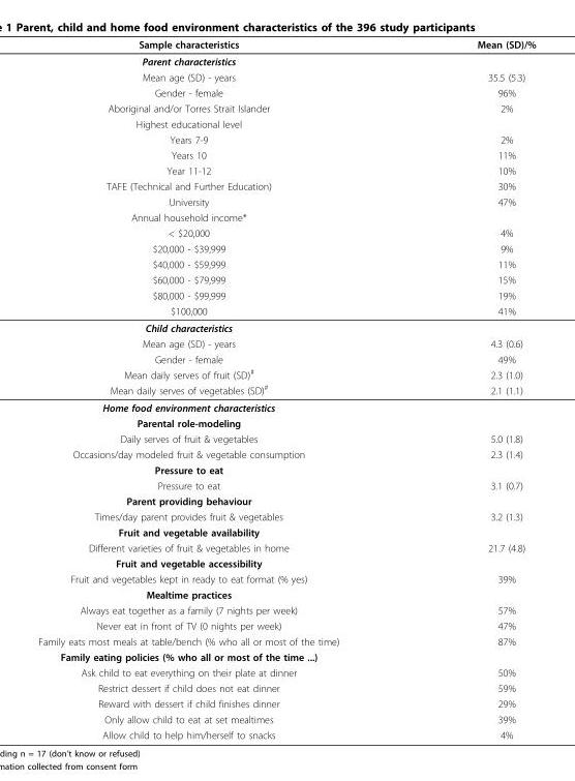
<table><thead><tr><td>Sample characteristics</td><td>Mean (SD)/%</td></tr></thead><tbody><tr><td colspan="2">Parent characteristics</td></tr><tr><td>Mean age (SD) - years</td><td>35.5 (5.3)</td></tr><tr><td>Gender - female</td><td>96%</td></tr><tr><td>Aboriginal and/or Torres Strait Islander</td><td>2%</td></tr><tr><td colspan="2">Highest educational level</td></tr><tr><td>Years 7-9</td><td>2%</td></tr><tr><td>Years 10</td><td>11%</td></tr><tr><td>Year 11-12</td><td>10%</td></tr><tr><td>TAFE (Technical and Further Education)</td><td>30%</td></tr><tr><td>University</td><td>47%</td></tr><tr><td colspan="2">Annual household income*</td></tr><tr><td>&lt; $20,000</td><td>4%</td></tr><tr><td>$20,000 - $39,999</td><td>9%</td></tr><tr><td>$40,000 - $59,999</td><td>11%</td></tr><tr><td>$60,000 - $79,999</td><td>15%</td></tr><tr><td>$80,000 - $99,999</td><td>19%</td></tr><tr><td>$100,000</td><td>41%</td></tr><tr><td colspan="2">Child characteristics</td></tr><tr><td>Mean age (SD) - years</td><td>4.3 (0.6)</td></tr><tr><td>Gender - female</td><td>49%</td></tr><tr><td>Mean daily serves of fruit (SD)<sup>#</sup></td><td>2.3 (1.0)</td></tr><tr><td>Mean daily serves of vegetables (SD)<sup>#</sup></td><td>2.1 (1.1)</td></tr><tr><td colspan="2">Home food environment characteristics</td></tr><tr><td colspan="2">Parental role-modeling</td></tr><tr><td>Daily serves of fruit &amp; vegetables</td><td>5.0 (1.8)</td></tr><tr><td>Occasions/day modeled fruit &amp; vegetable consumption</td><td>2.3 (1.4)</td></tr><tr><td colspan="2">Pressure to eat</td></tr><tr><td>Pressure to eat</td><td>3.1 (0.7)</td></tr><tr><td colspan="2">Parent providing behaviour</td></tr><tr><td>Times/day parent provides fruit &amp; vegetables</td><td>3.2 (1.3)</td></tr><tr><td colspan="2">Fruit and vegetable availability</td></tr><tr><td>Different varieties of fruit &amp; vegetables in home</td><td>21.7 (4.8)</td></tr><tr><td colspan="2">Fruit and vegetable accessibility</td></tr><tr><td>Fruit and vegetables kept in ready to eat format (% yes)</td><td>39%</td></tr><tr><td colspan="2">Mealtime practices</td></tr><tr><td>Always eat together as a family (7 nights per week)</td><td>57%</td></tr><tr><td>Never eat in front of TV (0 nights per week)</td><td>47%</td></tr><tr><td>Family eats most meals at table/bench (% who all or most of the time)</td><td>87%</td></tr><tr><td colspan="2">Family eating policies (% who all or most of the time ...)</td></tr><tr><td>Ask child to eat everything on their plate at dinner</td><td>50%</td></tr><tr><td>Restrict dessert if child does not eat dinner</td><td>59%</td></tr><tr><td>Reward with dessert if child finishes dinner</td><td>29%</td></tr><tr><td>Only allow child to eat at set mealtimes</td><td>39%</td></tr><tr><td>Allow child to help him/herself to snacks</td><td>4%</td></tr></tbody></table>